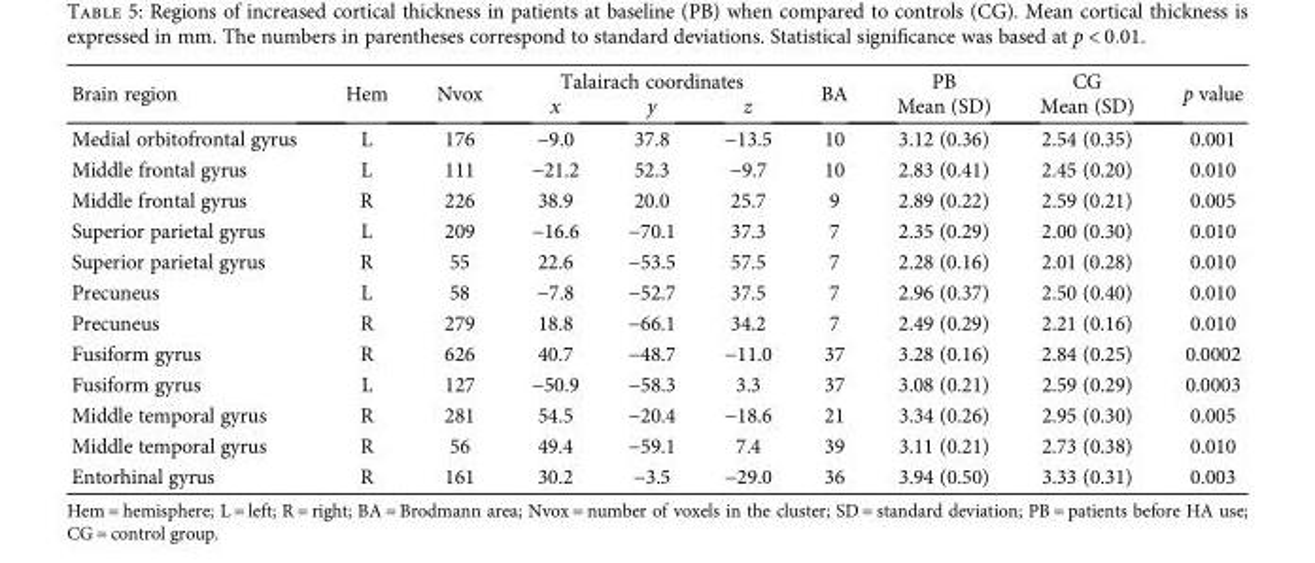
<table><thead><tr><td rowspan="2">Brain region</td><td rowspan="2">Hem</td><td rowspan="2">Nvox</td><td colspan="3">Talairach coordinates</td><td rowspan="2">BA</td><td rowspan="2">PB Mean (SD)</td><td rowspan="2">CG Mean (SD)</td><td rowspan="2">p value</td></tr><tr><td>x</td><td>y</td><td>z</td></tr></thead><tbody><tr><td>Medial orbitofrontal gyrus</td><td>L</td><td>176</td><td>−9.0</td><td>37.8</td><td>−13.5</td><td>10</td><td>3.12 (0.36)</td><td>2.54 (0.35)</td><td>0.001</td></tr><tr><td>Middle frontal gyrus</td><td>L</td><td>111</td><td>−21.2</td><td>52.3</td><td>−9.7</td><td>10</td><td>2.83 (0.41)</td><td>2.45 (0.20)</td><td>0.010</td></tr><tr><td>Middle frontal gyrus</td><td>R</td><td>226</td><td>38.9</td><td>20.0</td><td>25.7</td><td>9</td><td>2.89 (0.22)</td><td>2.59 (0.21)</td><td>0.005</td></tr><tr><td>Superior parietal gyrus</td><td>L</td><td>209</td><td>−16.6</td><td>−70.1</td><td>37.3</td><td>7</td><td>2.35 (0.29)</td><td>2.00 (0.30)</td><td>0.010</td></tr><tr><td>Superior parietal gyrus</td><td>R</td><td>55</td><td>22.6</td><td>−53.5</td><td>57.5</td><td>7</td><td>2.28 (0.16)</td><td>2.01 (0.28)</td><td>0.010</td></tr><tr><td>Precuneus</td><td>L</td><td>58</td><td>−7.8</td><td>−52.7</td><td>37.5</td><td>7</td><td>2.96 (0.37)</td><td>2.50 (0.40)</td><td>0.010</td></tr><tr><td>Precuneus</td><td>R</td><td>279</td><td>18.8</td><td>−66.1</td><td>34.2</td><td>7</td><td>2.49 (0.29)</td><td>2.21 (0.16)</td><td>0.010</td></tr><tr><td>Fusiform gyrus</td><td>R</td><td>626</td><td>40.7</td><td>−48.7</td><td>−11.0</td><td>37</td><td>3.28 (0.16)</td><td>2.84 (0.25)</td><td>0.0002</td></tr><tr><td>Fusiform gyrus</td><td>L</td><td>127</td><td>−50.9</td><td>−58.3</td><td>3.3</td><td>37</td><td>3.08 (0.21)</td><td>2.59 (0.29)</td><td>0.0003</td></tr><tr><td>Middle temporal gyrus</td><td>R</td><td>281</td><td>54.5</td><td>−20.4</td><td>−18.6</td><td>21</td><td>3.34 (0.26)</td><td>2.95 (0.30)</td><td>0.005</td></tr><tr><td>Middle temporal gyrus</td><td>R</td><td>56</td><td>49.4</td><td>−59.1</td><td>7.4</td><td>39</td><td>3.11 (0.21)</td><td>2.73 (0.38)</td><td>0.010</td></tr><tr><td>Entorhinal gyrus</td><td>R</td><td>161</td><td>30.2</td><td>−3.5</td><td>−29.0</td><td>36</td><td>3.94 (0.50)</td><td>3.33 (0.31)</td><td>0.003</td></tr></tbody></table>